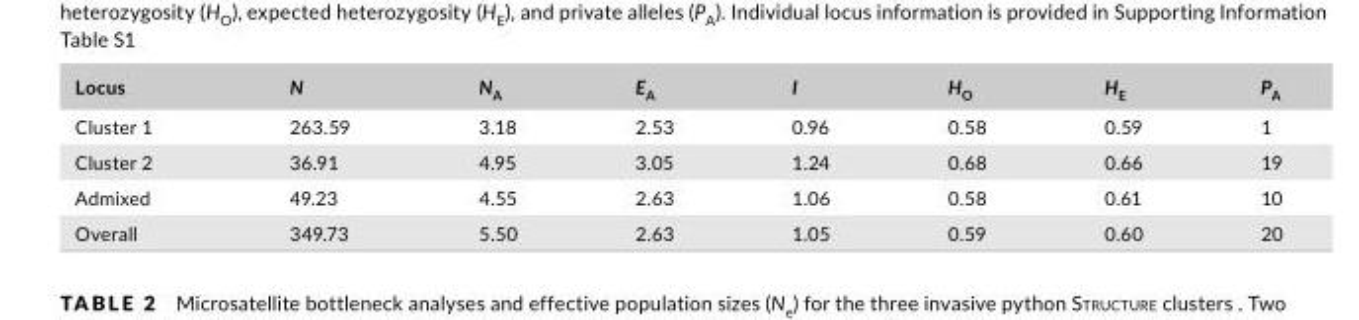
<table><thead><tr><td>Locus</td><td>N</td><td>N<sub>A</sub></td><td>E<sub>A</sub></td><td>I</td><td>H<sub>O</sub></td><td>H<sub>E</sub></td><td>P<sub>A</sub></td></tr></thead><tbody><tr><td>Cluster 1</td><td>263.59</td><td>3.18</td><td>2.53</td><td>0.96</td><td>0.58</td><td>0.59</td><td>1</td></tr><tr><td>Cluster 2</td><td>36.91</td><td>4.95</td><td>3.05</td><td>1.24</td><td>0.68</td><td>0.66</td><td>19</td></tr><tr><td>Admixed</td><td>49.23</td><td>4.55</td><td>2.63</td><td>1.06</td><td>0.58</td><td>0.61</td><td>10</td></tr><tr><td>Overall</td><td>349.73</td><td>5.50</td><td>2.63</td><td>1.05</td><td>0.59</td><td>0.60</td><td>20</td></tr></tbody></table>